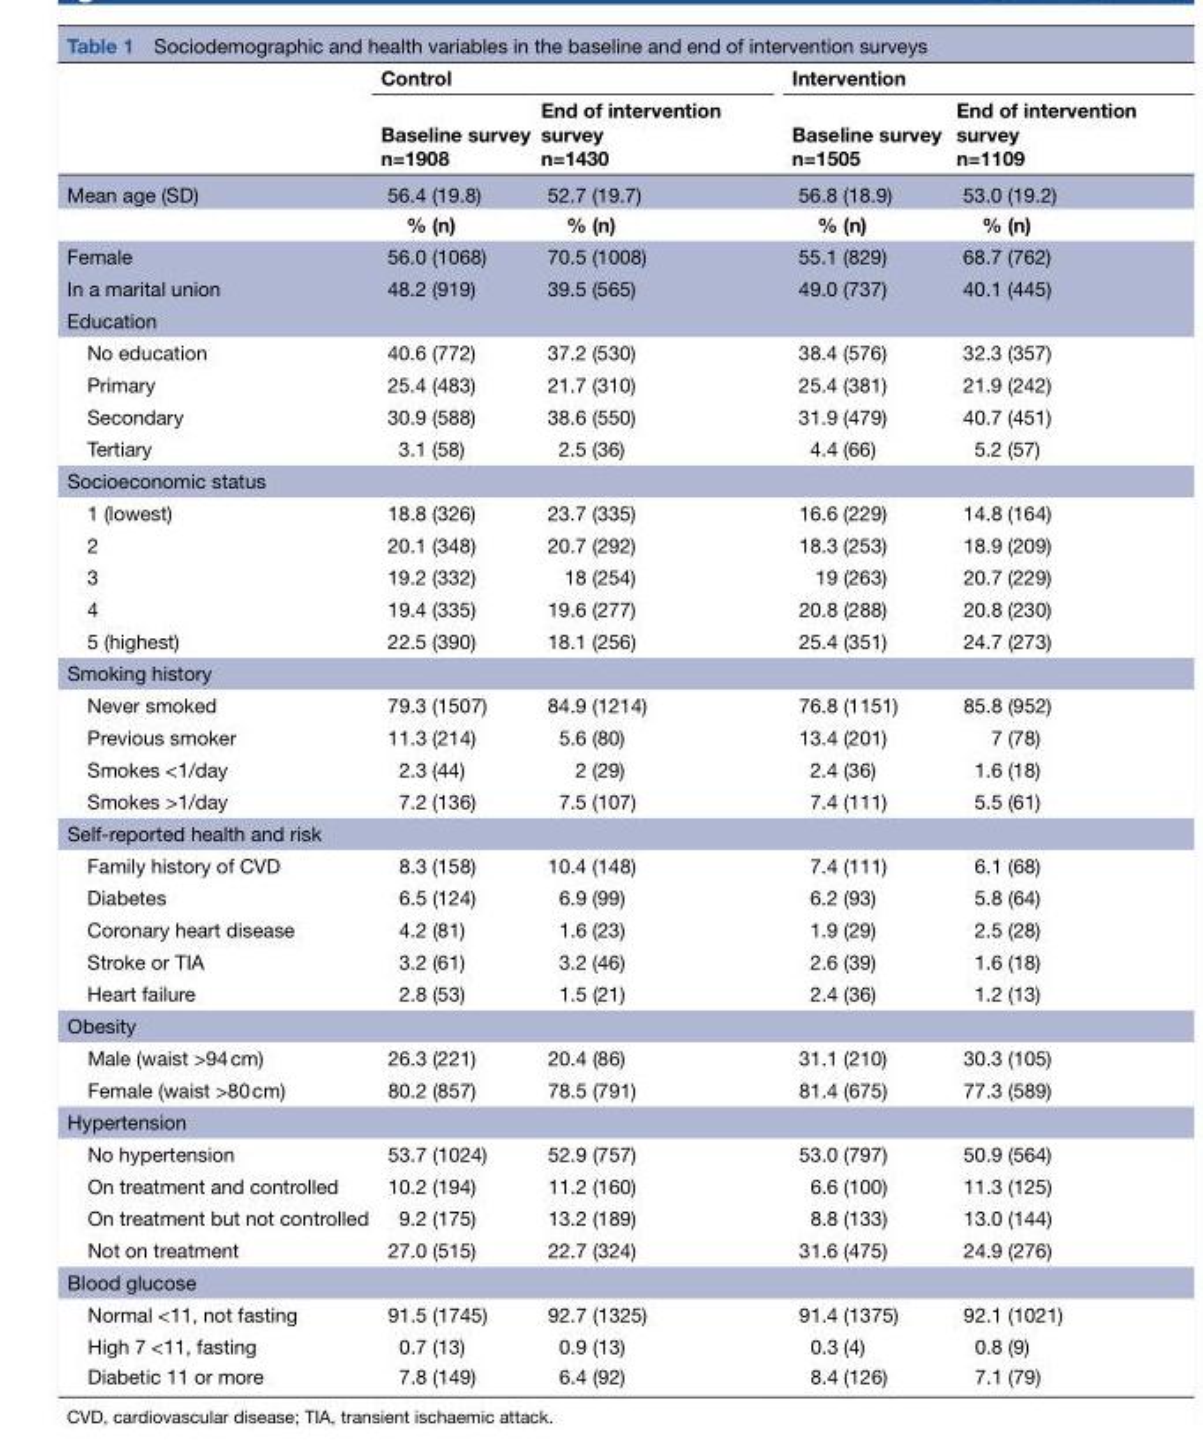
<table><thead><tr><td rowspan="2"></td><td colspan="2">Control</td><td colspan="2">Intervention</td></tr><tr><td>Baseline survey n=1908</td><td>End of intervention survey n=1430</td><td>Baseline survey n=1505</td><td>End of intervention survey n=1109</td></tr></thead><tbody><tr><td rowspan="2">Mean age (SD)</td><td>56.4 (19.8)</td><td>52.7 (19.7)</td><td>56.8 (18.9)</td><td>53.0 (19.2)</td></tr><tr><td>% (n)</td><td>% (n)</td><td>% (n)</td><td>% (n)</td></tr><tr><td>Female</td><td>56.0 (1068)</td><td>70.5 (1008)</td><td>55.1 (829)</td><td>68.7 (762)</td></tr><tr><td>In a marital union</td><td>48.2 (919)</td><td>39.5 (565)</td><td>49.0 (737)</td><td>40.1 (445)</td></tr><tr><td colspan="5">Education</td></tr><tr><td>No education</td><td>40.6 (772)</td><td>37.2 (530)</td><td>38.4 (576)</td><td>32.3 (357)</td></tr><tr><td>Primary</td><td>25.4 (483)</td><td>21.7 (310)</td><td>25.4 (381)</td><td>21.9 (242)</td></tr><tr><td>Secondary</td><td>30.9 (588)</td><td>38.6 (550)</td><td>31.9 (479)</td><td>40.7 (451)</td></tr><tr><td>Tertiary</td><td>3.1 (58)</td><td>2.5 (36)</td><td>4.4 (66)</td><td>5.2 (57)</td></tr><tr><td colspan="5">Socioeconomic status</td></tr><tr><td>1 (lowest)</td><td>18.8 (326)</td><td>23.7 (335)</td><td>16.6 (229)</td><td>14.8 (164)</td></tr><tr><td>2</td><td>20.1 (348)</td><td>20.7 (292)</td><td>18.3 (253)</td><td>18.9 (209)</td></tr><tr><td>3</td><td>19.2 (332)</td><td>18 (254)</td><td>19 (263)</td><td>20.7 (229)</td></tr><tr><td>4</td><td>19.4 (335)</td><td>19.6 (277)</td><td>20.8 (288)</td><td>20.8 (230)</td></tr><tr><td>5 (highest)</td><td>22.5 (390)</td><td>18.1 (256)</td><td>25.4 (351)</td><td>24.7 (273)</td></tr><tr><td colspan="5">Smoking history</td></tr><tr><td>Never smoked</td><td>79.3 (1507)</td><td>84.9 (1214)</td><td>76.8 (1151)</td><td>85.8 (952)</td></tr><tr><td>Previous smoker</td><td>11.3 (214)</td><td>5.6 (80)</td><td>13.4 (201)</td><td>7 (78)</td></tr><tr><td>Smokes &lt;1/day</td><td>2.3 (44)</td><td>2 (29)</td><td>2.4 (36)</td><td>1.6 (18)</td></tr><tr><td>Smokes &gt;1/day</td><td>7.2 (136)</td><td>7.5 (107)</td><td>7.4 (111)</td><td>5.5 (61)</td></tr><tr><td colspan="5">Self-reported health and risk</td></tr><tr><td>Family history of CVD</td><td>8.3 (158)</td><td>10.4 (148)</td><td>7.4 (111)</td><td>6.1 (68)</td></tr><tr><td>Diabetes</td><td>6.5 (124)</td><td>6.9 (99)</td><td>6.2 (93)</td><td>5.8 (64)</td></tr><tr><td>Coronary heart disease</td><td>4.2 (81)</td><td>1.6 (23)</td><td>1.9 (29)</td><td>2.5 (28)</td></tr><tr><td>Stroke or TIA</td><td>3.2 (61)</td><td>3.2 (46)</td><td>2.6 (39)</td><td>1.6 (18)</td></tr><tr><td>Heart failure</td><td>2.8 (53)</td><td>1.5 (21)</td><td>2.4 (36)</td><td>1.2 (13)</td></tr><tr><td colspan="5">Obesity</td></tr><tr><td>Male (waist &gt;94 cm)</td><td>26.3 (221)</td><td>20.4 (86)</td><td>31.1 (210)</td><td>30.3 (105)</td></tr><tr><td>Female (waist &gt;80 cm)</td><td>80.2 (857)</td><td>78.5 (791)</td><td>81.4 (675)</td><td>77.3 (589)</td></tr><tr><td colspan="5">Hypertension</td></tr><tr><td>No hypertension</td><td>53.7 (1024)</td><td>52.9 (757)</td><td>53.0 (797)</td><td>50.9 (564)</td></tr><tr><td>On treatment and controlled</td><td>10.2 (194)</td><td>11.2 (160)</td><td>6.6 (100)</td><td>11.3 (125)</td></tr><tr><td>On treatment but not controlled</td><td>9.2 (175)</td><td>13.2 (189)</td><td>8.8 (133)</td><td>13.0 (144)</td></tr><tr><td>Not on treatment</td><td>27.0 (515)</td><td>22.7 (324)</td><td>31.6 (475)</td><td>24.9 (276)</td></tr><tr><td colspan="5">Blood glucose</td></tr><tr><td>Normal &lt;11, not fasting</td><td>91.5 (1745)</td><td>92.7 (1325)</td><td>91.4 (1375)</td><td>92.1 (1021)</td></tr><tr><td>High 7 &lt;11, fasting</td><td>0.7 (13)</td><td>0.9 (13)</td><td>0.3 (4)</td><td>0.8 (9)</td></tr><tr><td>Diabetic 11 or more</td><td>7.8 (149)</td><td>6.4 (92)</td><td>8.4 (126)</td><td>7.1 (79)</td></tr></tbody></table>